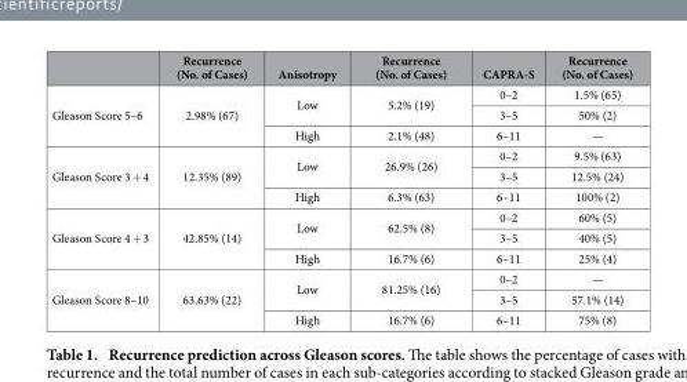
<table><thead><tr><td></td><td>Recurrence (No. of Cases)</td><td>Anisotropy</td><td>Recurrence (No. of Cases)</td><td>CAPRA-S</td><td>Recurrence (No. of Cases)</td></tr></thead><tbody><tr><td rowspan="3">Gleason Score 5–6</td><td rowspan="3">2.98% (67)</td><td rowspan="2">Low</td><td rowspan="2">5.2% (19)</td><td>0–2</td><td>1.5% (65)</td></tr><tr><td>3–5</td><td>50% (2)</td></tr><tr><td>High</td><td>2.1% (48)</td><td>6–11</td><td>—</td></tr><tr><td rowspan="3">Gleason Score 3 + 4</td><td rowspan="3">12.35% (89)</td><td rowspan="2">Low</td><td rowspan="2">26.9% (26)</td><td>0–2</td><td>9.5% (63)</td></tr><tr><td>3–5</td><td>12.5% (24)</td></tr><tr><td>High</td><td>6.3% (63)</td><td>6–11</td><td>100% (2)</td></tr><tr><td rowspan="3">Gleason Score 4 + 3</td><td rowspan="3">42.85% (14)</td><td rowspan="2">Low</td><td rowspan="2">62.5% (8)</td><td>0–2</td><td>60% (5)</td></tr><tr><td>3–5</td><td>40% (5)</td></tr><tr><td>High</td><td>16.7% (6)</td><td>6–11</td><td>25% (4)</td></tr><tr><td rowspan="3">Gleason Score 8–10</td><td rowspan="3">63.63% (22)</td><td rowspan="2">Low</td><td rowspan="2">81.25% (16)</td><td>0–2</td><td>—</td></tr><tr><td>3–5</td><td>57.1% (14)</td></tr><tr><td>High</td><td>16.7% (6)</td><td>6–11</td><td>75% (8)</td></tr></tbody></table>